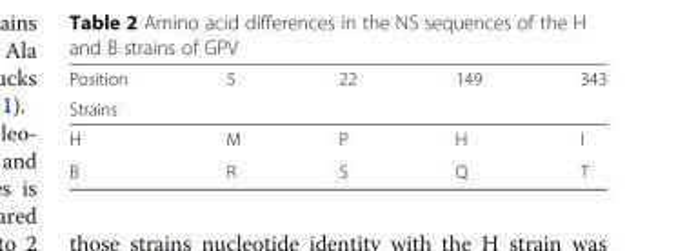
<table><thead><tr><td rowspan="2">Position Strains</td><td rowspan="2">5</td><td rowspan="2">22</td><td rowspan="2">149</td><td rowspan="2">343</td></tr><tr></tr></thead><tbody><tr><td>H</td><td>M</td><td>P</td><td>H</td><td>I</td></tr><tr><td>B</td><td>R</td><td>S</td><td>Q</td><td>T</td></tr></tbody></table>